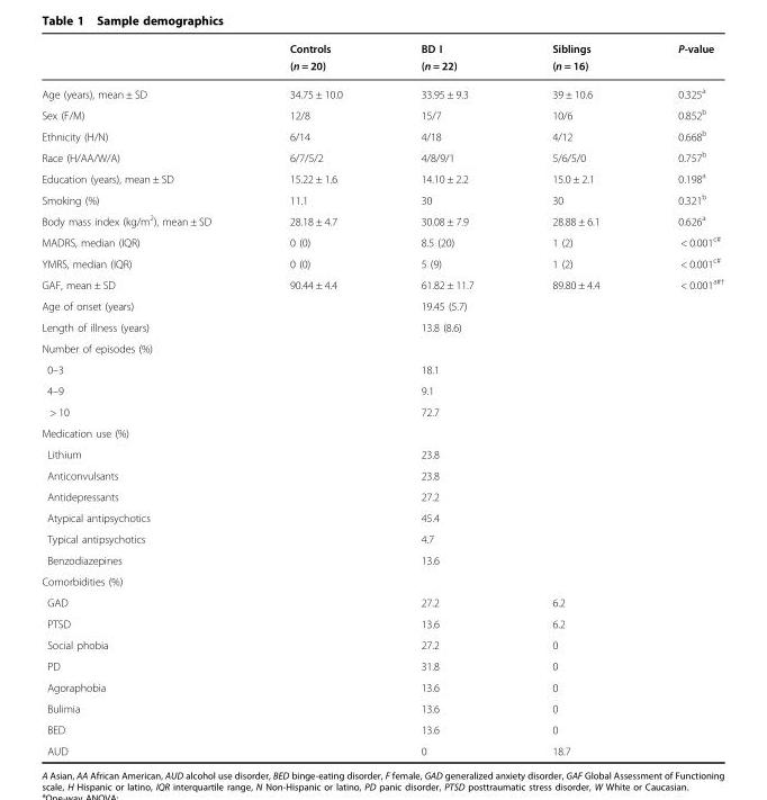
<table><thead><tr><td></td><td>Controls (n = 20)</td><td>BD I (n = 22)</td><td>Siblings (n = 16)</td><td>P-value</td></tr></thead><tbody><tr><td>Age (years), mean ± SD</td><td>34.75 ± 10.0</td><td>33.95 ± 9.3</td><td>39 ± 10.6</td><td>0.325<sup>a</sup></td></tr><tr><td>Sex (F/M)</td><td>12/8</td><td>15/7</td><td>10/6</td><td>0.852<sup>b</sup></td></tr><tr><td>Ethnicity (H/N)</td><td>6/14</td><td>4/18</td><td>4/12</td><td>0.668<sup>b</sup></td></tr><tr><td>Race (H/AA/W/A)</td><td>6/7/5/2</td><td>4/8/9/1</td><td>5/6/5/0</td><td>0.757<sup>b</sup></td></tr><tr><td>Education (years), mean ± SD</td><td>15.22 ± 1.6</td><td>14.10 ± 2.2</td><td>15.0 ± 2.1</td><td>0.198<sup>a</sup></td></tr><tr><td>Smoking (%)</td><td>11.1</td><td>30</td><td>30</td><td>0.321<sup>b</sup></td></tr><tr><td>Body mass index (kg/m<sup>2</sup>), mean ± SD</td><td>28.18 ± 4.7</td><td>30.08 ± 7.9</td><td>28.88 ± 6.1</td><td>0.626<sup>a</sup></td></tr><tr><td>MADRS, median (IQR)</td><td>0 (0)</td><td>8.5 (20)</td><td>1 (2)</td><td>&lt; 0.001<sup>c#</sup></td></tr><tr><td>YMRS, median (IQR)</td><td>0 (0)</td><td>5 (9)</td><td>1 (2)</td><td>&lt; 0.001<sup>c#</sup></td></tr><tr><td>GAF, mean ± SD</td><td>90.44 ± 4.4</td><td>61.82 ± 11.7</td><td>89.80 ± 4.4</td><td>&lt; 0.001<sup>a#†</sup></td></tr><tr><td>Age of onset (years)</td><td></td><td>19.45 (5.7)</td><td></td><td></td></tr><tr><td>Length of illness (years)</td><td></td><td>13.8 (8.6)</td><td></td><td></td></tr><tr><td colspan="5">Number of episodes (%)</td></tr><tr><td>0–3</td><td></td><td>18.1</td><td></td><td></td></tr><tr><td>4–9</td><td></td><td>9.1</td><td></td><td></td></tr><tr><td>&gt; 10</td><td></td><td>72.7</td><td></td><td></td></tr><tr><td colspan="5">Medication use (%)</td></tr><tr><td>Lithium</td><td></td><td>23.8</td><td></td><td></td></tr><tr><td>Anticonvulsants</td><td></td><td>23.8</td><td></td><td></td></tr><tr><td>Antidepressants</td><td></td><td>27.2</td><td></td><td></td></tr><tr><td>Atypical antipsychotics</td><td></td><td>45.4</td><td></td><td></td></tr><tr><td>Typical antipsychotics</td><td></td><td>4.7</td><td></td><td></td></tr><tr><td>Benzodiazepines</td><td></td><td>13.6</td><td></td><td></td></tr><tr><td colspan="5">Comorbidities (%)</td></tr><tr><td>GAD</td><td></td><td>27.2</td><td>6.2</td><td></td></tr><tr><td>PTSD</td><td></td><td>13.6</td><td>6.2</td><td></td></tr><tr><td>Social phobia</td><td></td><td>27.2</td><td>0</td><td></td></tr><tr><td>PD</td><td></td><td>31.8</td><td>0</td><td></td></tr><tr><td>Agoraphobia</td><td></td><td>13.6</td><td>0</td><td></td></tr><tr><td>Bulimia</td><td></td><td>13.6</td><td>0</td><td></td></tr><tr><td>BED</td><td></td><td>13.6</td><td>0</td><td></td></tr><tr><td>AUD</td><td></td><td>0</td><td>18.7</td><td></td></tr></tbody></table>